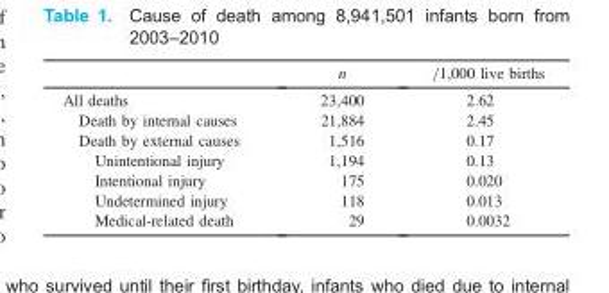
<table><thead><tr><td></td><td>n</td><td>=1,000 live births</td></tr></thead><tbody><tr><td>All deaths</td><td>23,400</td><td>2.62</td></tr><tr><td>Death by internal causes</td><td>21,884</td><td>2.45</td></tr><tr><td>Death by external causes</td><td>1,516</td><td>0.17</td></tr><tr><td>Unintentional injury</td><td>1,194</td><td>0.13</td></tr><tr><td>Intentional injury</td><td>175</td><td>0.020</td></tr><tr><td>Undetermined injury</td><td>118</td><td>0.013</td></tr><tr><td>Medical-related death</td><td>29</td><td>0.0032</td></tr></tbody></table>